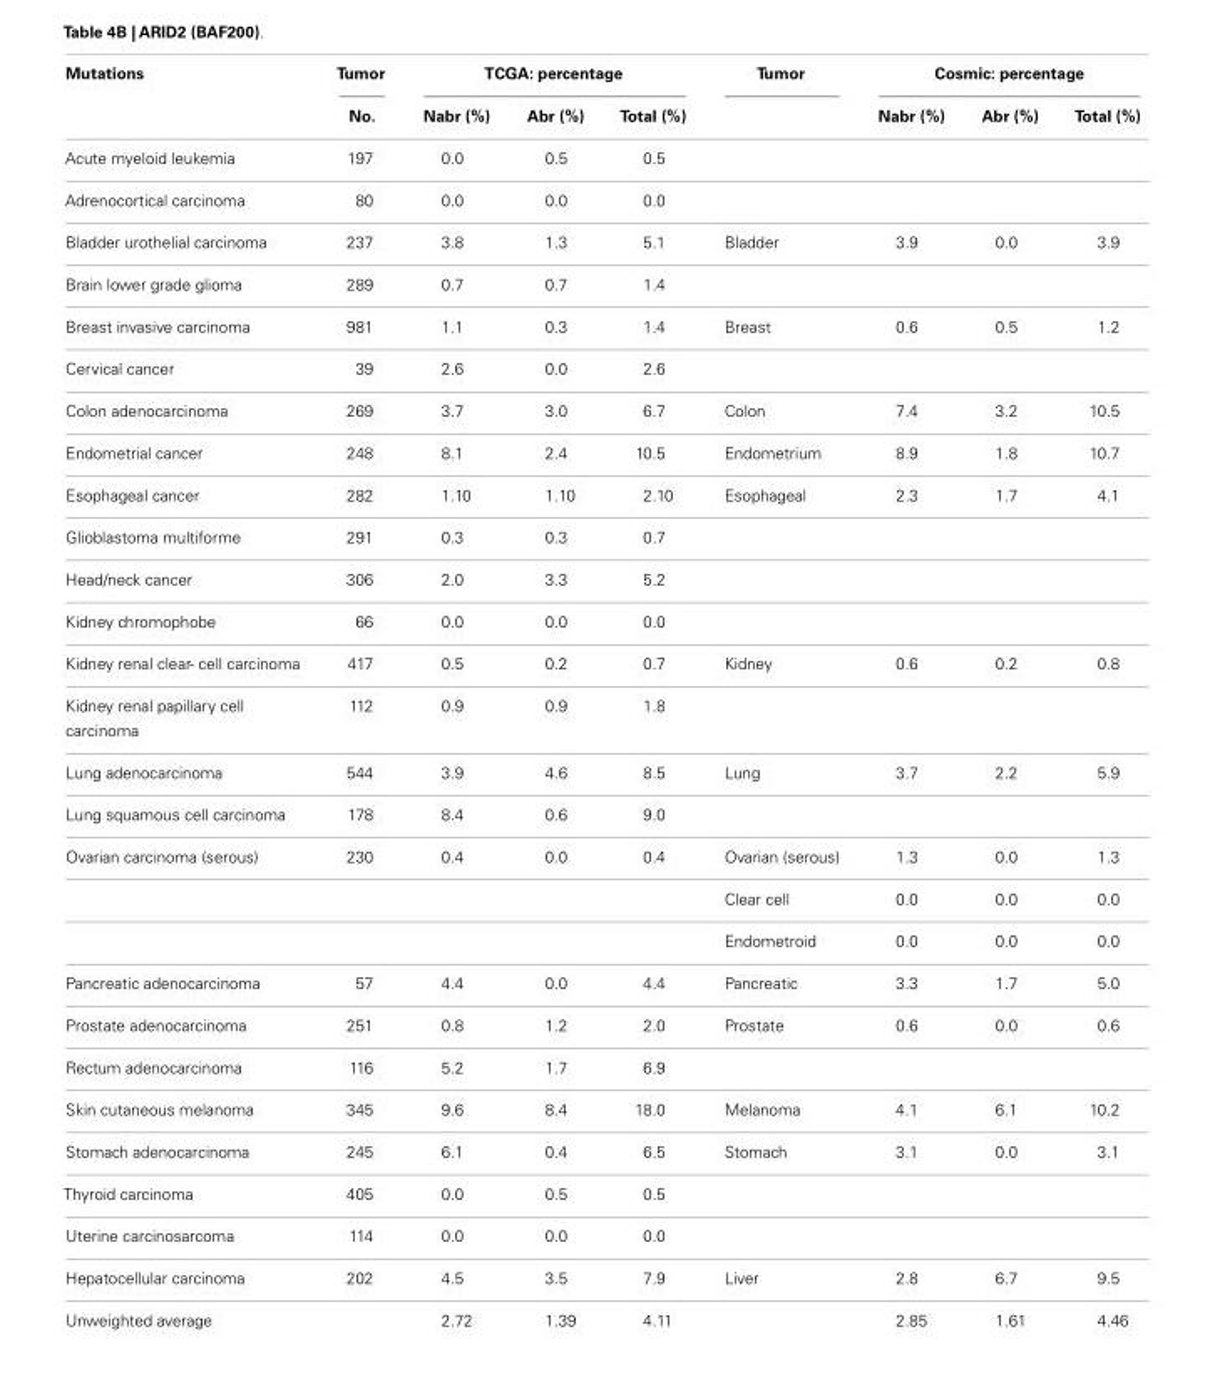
<table><thead><tr><td rowspan="2">Mutations</td><td rowspan="2">Tumor No.</td><td colspan="3">TCGA: percentage</td><td rowspan="2">Tumor</td><td colspan="3">Cosmic: percentage</td></tr><tr><td>Nabr (%)</td><td>Abr (%)</td><td>Total (%)</td><td>Nabr (%)</td><td>Abr (%)</td><td>Total (%)</td></tr></thead><tbody><tr><td>Acute myeloid leukemia</td><td>197</td><td>0.0</td><td>0.5</td><td>0.5</td><td></td><td></td><td></td><td></td></tr><tr><td>Adrenocortical carcinoma</td><td>80</td><td>0.0</td><td>0.0</td><td>0.0</td><td></td><td></td><td></td><td></td></tr><tr><td>Bladder urothelial carcinoma</td><td>237</td><td>3.8</td><td>1.3</td><td>5.1</td><td>Bladder</td><td>3.9</td><td>0.0</td><td>3.9</td></tr><tr><td>Brain lower grade glioma</td><td>289</td><td>0.7</td><td>0.7</td><td>1.4</td><td></td><td></td><td></td><td></td></tr><tr><td>Breast invasive carcinoma</td><td>981</td><td>1.1</td><td>0.3</td><td>1.4</td><td>Breast</td><td>0.6</td><td>0.5</td><td>1.2</td></tr><tr><td>Cervical cancer</td><td>39</td><td>2.6</td><td>0.0</td><td>2.6</td><td></td><td></td><td></td><td></td></tr><tr><td>Colon adenocarcinoma</td><td>269</td><td>3.7</td><td>3.0</td><td>6.7</td><td>Colon</td><td>7.4</td><td>3.2</td><td>10.5</td></tr><tr><td>Endometrial cancer</td><td>248</td><td>8.1</td><td>2.4</td><td>10.5</td><td>Endometrium</td><td>8.9</td><td>1.8</td><td>10.7</td></tr><tr><td>Esophageal cancer</td><td>282</td><td>1.10</td><td>1.10</td><td>2.10</td><td>Esophageal</td><td>2.3</td><td>1.7</td><td>4.1</td></tr><tr><td>Glioblastoma multiforme</td><td>291</td><td>0.3</td><td>0.3</td><td>0.7</td><td></td><td></td><td></td><td></td></tr><tr><td>Head/neck cancer</td><td>306</td><td>2.0</td><td>3.3</td><td>5.2</td><td></td><td></td><td></td><td></td></tr><tr><td>Kidney chromophobe</td><td>66</td><td>0.0</td><td>0.0</td><td>0.0</td><td></td><td></td><td></td><td></td></tr><tr><td>Kidney renal clear- cell carcinoma</td><td>417</td><td>0.5</td><td>0.2</td><td>0.7</td><td>Kidney</td><td>0.6</td><td>0.2</td><td>0.8</td></tr><tr><td>Kidney renal papillary cell carcinoma</td><td>112</td><td>0.9</td><td>0.9</td><td>1.8</td><td></td><td></td><td></td><td></td></tr><tr><td>Lung adenocarcinoma</td><td>544</td><td>3.9</td><td>4.6</td><td>8.5</td><td>Lung</td><td>3.7</td><td>2.2</td><td>5.9</td></tr><tr><td>Lung squamous cell carcinoma</td><td>178</td><td>8.4</td><td>0.6</td><td>9.0</td><td></td><td></td><td></td><td></td></tr><tr><td rowspan="3">Ovarian carcinoma (serous)</td><td>230</td><td>0.4</td><td>0.0</td><td>0.4</td><td>Ovarian (serous)</td><td>1.3</td><td>0.0</td><td>1.3</td></tr><tr><td></td><td></td><td></td><td></td><td>Clear cell</td><td>0.0</td><td>0.0</td><td>0.0</td></tr><tr><td></td><td></td><td></td><td></td><td>Endometroid</td><td>0.0</td><td>0.0</td><td>0.0</td></tr><tr><td>Pancreatic adenocarcinoma</td><td>57</td><td>4.4</td><td>0.0</td><td>4.4</td><td>Pancreatic</td><td>3.3</td><td>1.7</td><td>5.0</td></tr><tr><td>Prostate adenocarcinoma</td><td>251</td><td>0.8</td><td>1.2</td><td>2.0</td><td>Prostate</td><td>0.6</td><td>0.0</td><td>0.6</td></tr><tr><td>Rectum adenocarcinoma</td><td>116</td><td>5.2</td><td>1.7</td><td>6.9</td><td></td><td></td><td></td><td></td></tr><tr><td>Skin cutaneous melanoma</td><td>345</td><td>9.6</td><td>8.4</td><td>18.0</td><td>Melanoma</td><td>4.1</td><td>6.1</td><td>10.2</td></tr><tr><td>Stomach adenocarcinoma</td><td>245</td><td>6.1</td><td>0.4</td><td>6.5</td><td>Stomach</td><td>3.1</td><td>0.0</td><td>3.1</td></tr><tr><td>Thyroid carcinoma</td><td>405</td><td>0.0</td><td>0.5</td><td>0.5</td><td></td><td></td><td></td><td></td></tr><tr><td>Uterine carcinosarcoma</td><td>114</td><td>0.0</td><td>0.0</td><td>0.0</td><td></td><td></td><td></td><td></td></tr><tr><td>Hepatocellular carcinoma</td><td>202</td><td>4.5</td><td>3.5</td><td>7.9</td><td>Liver</td><td>2.8</td><td>6.7</td><td>9.5</td></tr><tr><td>Unweighted average</td><td></td><td>2.72</td><td>1.39</td><td>4.11</td><td></td><td>2.85</td><td>1.61</td><td>4.46</td></tr></tbody></table>